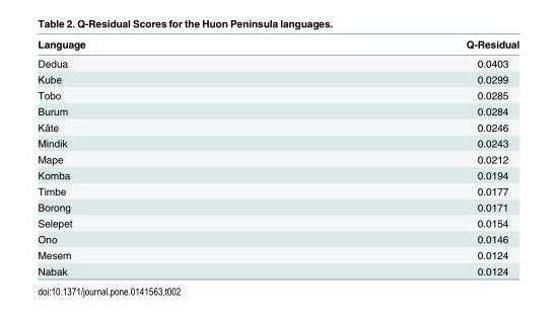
<table><thead><tr><td>Language</td><td>Q-Residual</td></tr></thead><tbody><tr><td>Dedua</td><td>0.0403</td></tr><tr><td>Kube</td><td>0.0299</td></tr><tr><td>Tobo</td><td>0.0285</td></tr><tr><td>Burum</td><td>0.0284</td></tr><tr><td>Kâte</td><td>0.0246</td></tr><tr><td>Mindik</td><td>0.0243</td></tr><tr><td>Mape</td><td>0.0212</td></tr><tr><td>Komba</td><td>0.0194</td></tr><tr><td>Timbe</td><td>0.0177</td></tr><tr><td>Borong</td><td>0.0171</td></tr><tr><td>Selepet</td><td>0.0154</td></tr><tr><td>Ono</td><td>0.0146</td></tr><tr><td>Mesem</td><td>0.0124</td></tr><tr><td>Nabak</td><td>0.0124</td></tr></tbody></table>